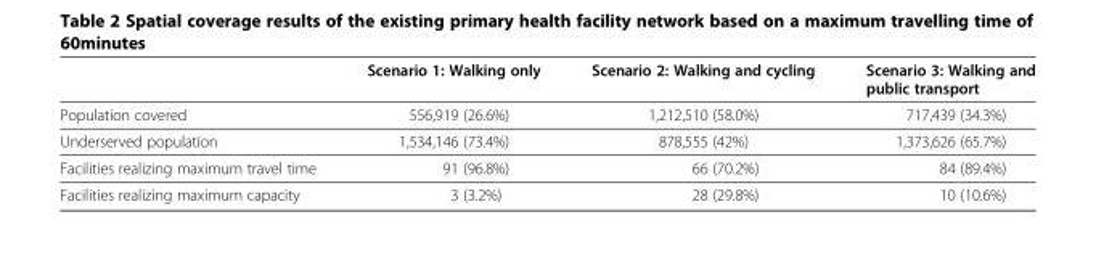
<table><thead><tr><td></td><td>Scenario 1: Walking only</td><td>Scenario 2: Walking and cycling</td><td>Scenario 3: Walking and public transport</td></tr></thead><tbody><tr><td>Population covered</td><td>556,919 (26.6%)</td><td>1,212,510 (58.0%)</td><td>717,439 (34.3%)</td></tr><tr><td>Underserved population</td><td>1,534,146 (73.4%)</td><td>878,555 (42%)</td><td>1,373,626 (65.7%)</td></tr><tr><td>Facilities realizing maximum travel time</td><td>91 (96.8%)</td><td>66 (70.2%)</td><td>84 (89.4%)</td></tr><tr><td>Facilities realizing maximum capacity</td><td>3 (3.2%)</td><td>28 (29.8%)</td><td>10 (10.6%)</td></tr></tbody></table>